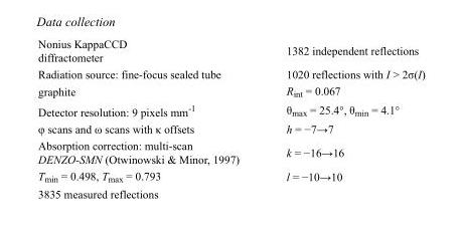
<table><tbody><tr><td>Nonius KappaCCD diffractometer</td><td>1382 independent reflections</td></tr><tr><td>Radiation source: fine-focus sealed tube</td><td>1020 reflections with I &gt; 2σ(I)</td></tr><tr><td>graphite</td><td>R<sub>int</sub> = 0.067</td></tr><tr><td>Detector resolution: 9 pixels mm<sup>-1</sup></td><td>θ<sub>max</sub> = 25.4°, θ<sub>min</sub> = 4.1°</td></tr><tr><td>φ scans and ω scans with κ offsets</td><td>h = −7→7</td></tr><tr><td>Absorption correction: multi-scan DENZO-SMN (Otwinowski &amp; Minor, 1997)</td><td>k = −16→16</td></tr><tr><td>T<sub>min</sub> = 0.498, T<sub>max</sub> = 0.793</td><td>l = −10→10</td></tr><tr><td>3835 measured reflections</td><td></td></tr></tbody></table>